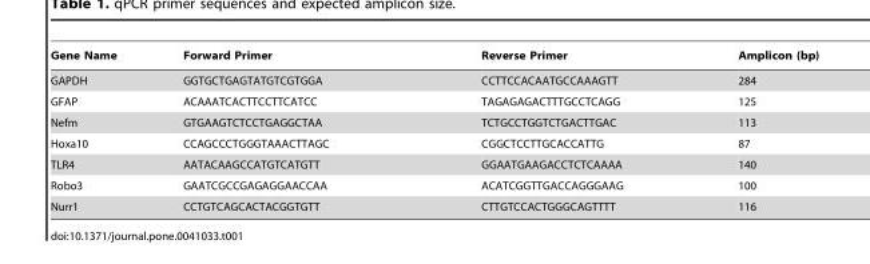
<table><thead><tr><td>Gene Name</td><td>Forward Primer</td><td>Reverse Primer</td><td>Amplicon (bp)</td></tr></thead><tbody><tr><td>GAPDH</td><td>GGTGCTGAGTATGTCGTGGA</td><td>CCTTCCACAATGCCAAAGTT</td><td>284</td></tr><tr><td>GFAP</td><td>ACAAATCACTTCCTTCATCC</td><td>TAGAGAGACTTTGCCTCAGG</td><td>125</td></tr><tr><td>Nefm</td><td>GTGAAGTCTCCTGAGGCTAA</td><td>TCTGCCTGGTCTGACTTGAC</td><td>113</td></tr><tr><td>Hoxa10</td><td>CCAGCCCTGGGTAAACTTAGC</td><td>CGGCTCCTTGCACCATTG</td><td>87</td></tr><tr><td>TLR4</td><td>AATACAAGCCATGTCATGTT</td><td>GGAATGAAGACCTCTCAAAA</td><td>140</td></tr><tr><td>Robo3</td><td>GAATCGCCGAGAGGAACCAA</td><td>ACATCGGTTGACCAGGGAAG</td><td>100</td></tr><tr><td>Nurr1</td><td>CCTGTCAGCACTACGGTGTT</td><td>CTTGTCCACTGGGCAGTTTT</td><td>116</td></tr></tbody></table>